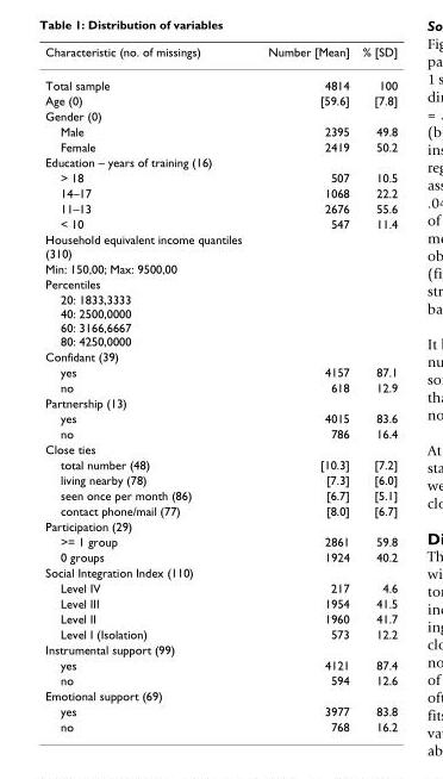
<table><thead><tr><td>Characteristic (no. of missings)</td><td>Number [Mean]</td><td>% [SD]</td></tr></thead><tbody><tr><td>Total sample</td><td>4814</td><td>100</td></tr><tr><td>Age (0)</td><td>[59.6]</td><td>[7.8]</td></tr><tr><td colspan="3">Gender (0)</td></tr><tr><td>Male</td><td>2395</td><td>49.8</td></tr><tr><td>Female</td><td>2419</td><td>50.2</td></tr><tr><td colspan="3">Education – years of training (16)</td></tr><tr><td>&gt; 18</td><td>507</td><td>10.5</td></tr><tr><td>14–17</td><td>1068</td><td>22.2</td></tr><tr><td>11–13</td><td>2676</td><td>55.6</td></tr><tr><td>&lt; 10</td><td>547</td><td>11.4</td></tr><tr><td colspan="3">Household equivalent income quantiles (310)</td></tr><tr><td colspan="3">Min: 150,00; Max: 9500,00</td></tr><tr><td colspan="3">Percentiles</td></tr><tr><td colspan="3">20: 1833,3333 40: 2500,0000 60: 3166,6667 80: 4250,0000</td></tr><tr><td colspan="3">Confidant (39)</td></tr><tr><td>yes</td><td>4157</td><td>87.1</td></tr><tr><td>no</td><td>618</td><td>12.9</td></tr><tr><td colspan="3">Partnership (13)</td></tr><tr><td>yes</td><td>4015</td><td>83.6</td></tr><tr><td>no</td><td>786</td><td>16.4</td></tr><tr><td colspan="3">Close ties</td></tr><tr><td>total number (48)</td><td>[10.3]</td><td>[7.2]</td></tr><tr><td>living nearby (78)</td><td>[7.3]</td><td>[6.0]</td></tr><tr><td>seen once per month (86)</td><td>[6.7]</td><td>[5.1]</td></tr><tr><td>contact phone/mail (77)</td><td>[8.0]</td><td>[6.7]</td></tr><tr><td colspan="3">Participation (29)</td></tr><tr><td>&gt;= 1 group</td><td>2861</td><td>59.8</td></tr><tr><td>0 groups</td><td>1924</td><td>40.2</td></tr><tr><td colspan="3">Social Integration Index (110)</td></tr><tr><td>Level IV</td><td>217</td><td>4.6</td></tr><tr><td>Level III</td><td>1954</td><td>41.5</td></tr><tr><td>Level II</td><td>1960</td><td>41.7</td></tr><tr><td>Level I (Isolation)</td><td>573</td><td>12.2</td></tr><tr><td colspan="3">Instrumental support (99)</td></tr><tr><td>yes</td><td>4121</td><td>87.4</td></tr><tr><td>no</td><td>594</td><td>12.6</td></tr><tr><td colspan="3">Emotional support (69)</td></tr><tr><td>yes</td><td>3977</td><td>83.8</td></tr><tr><td>no</td><td>768</td><td>16.2</td></tr></tbody></table>